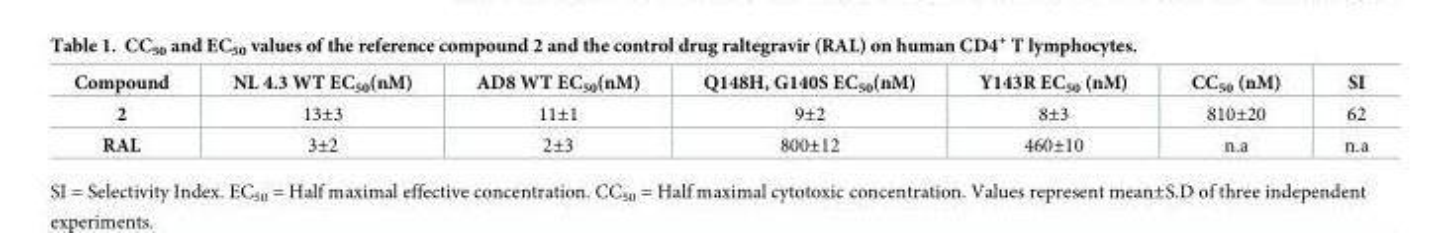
<table><thead><tr><td>Compound</td><td>NL 4.3 WT EC<sub>50</sub>(nM)</td><td>AD8 WT EC<sub>50</sub>(nM)</td><td>Q148H, G140S EC<sub>50</sub>(nM)</td><td>Y143R EC<sub>50</sub> (nM)</td><td>CC<sub>50</sub> (nM)</td><td>SI</td></tr></thead><tbody><tr><td>2</td><td>13±3</td><td>11±1</td><td>9±2</td><td>8±3</td><td>810±20</td><td>62</td></tr><tr><td>RAL</td><td>3±2</td><td>2±3</td><td>800±12</td><td>460±10</td><td>n.a</td><td>n.a</td></tr></tbody></table>